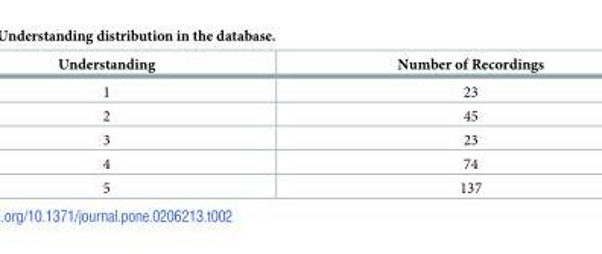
<table><thead><tr><td>Understanding</td><td>Number of Recordings</td></tr></thead><tbody><tr><td>1</td><td>23</td></tr><tr><td>2</td><td>45</td></tr><tr><td>3</td><td>23</td></tr><tr><td>4</td><td>74</td></tr><tr><td>5</td><td>137</td></tr></tbody></table>